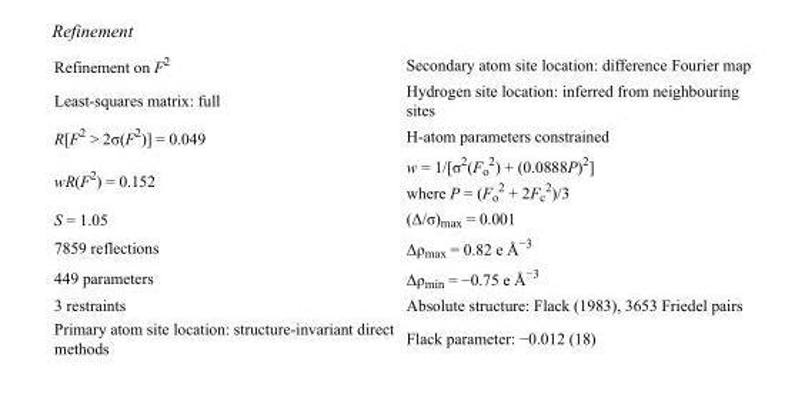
<table><tbody><tr><td>Refinement on F<sup>2</sup></td><td>Secondary atom site location: difference Fourier map</td></tr><tr><td>Least-squares matrix: full</td><td>Hydrogen site location: inferred from neighbouring sites</td></tr><tr><td>R[F<sup>2</sup> &gt; 2σ(F<sup>2</sup>)] = 0.049</td><td>H-atom parameters constrained</td></tr><tr><td>wR(F<sup>2</sup>) = 0.152</td><td>w = 1/[σ<sup>2</sup>(F<sub>o</sub> <sup>2</sup>) + (0.0888P)<sup>2</sup>] where P = (F<sub>o</sub> <sup>2</sup> + 2F<sub>c</sub> <sup>2</sup>)/3</td></tr><tr><td>S = 1.05</td><td>(Δ/σ)<sub>max</sub> = 0.001</td></tr><tr><td>7859 reflections</td><td>Δρ<sub>max</sub> = 0.82 e Å<sup>−3</sup></td></tr><tr><td>449 parameters</td><td>Δρ<sub>min</sub> = −0.75 e Å<sup>−3</sup></td></tr><tr><td>3 restraints</td><td>Absolute structure: Flack (1983), 3653 Friedel pairs</td></tr><tr><td>Primary atom site location: structure-invariant direct methods</td><td>Flack parameter: −0.012 (18)</td></tr></tbody></table>